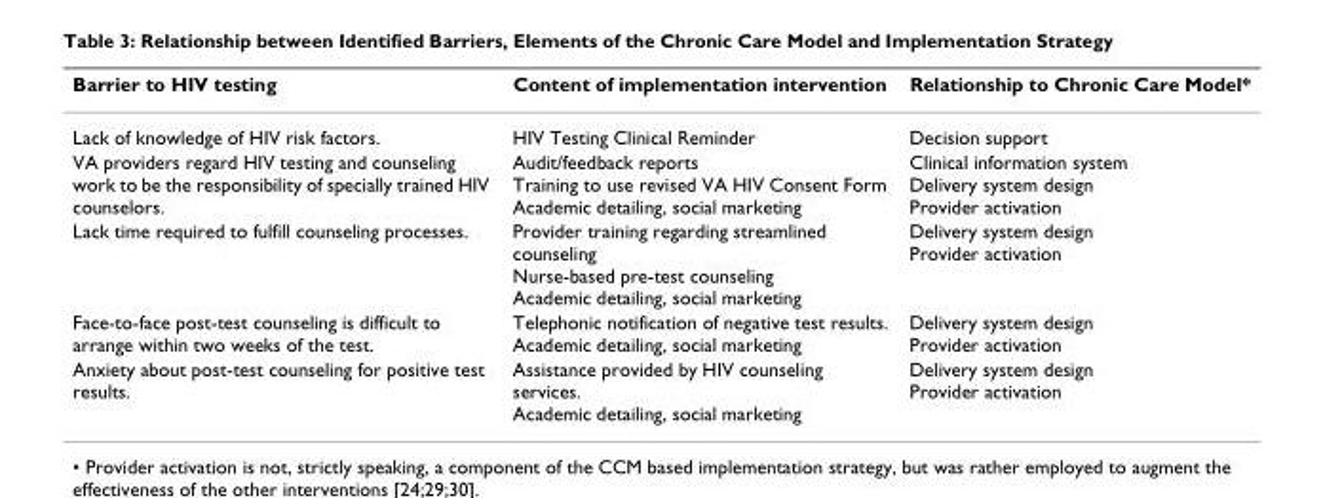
<table><thead><tr><td>Barrier to HIV testing</td><td>Content of implementation intervention</td><td>Relationship to Chronic Care Model*</td></tr></thead><tbody><tr><td>Lack of knowledge of HIV risk factors.</td><td>HIV Testing Clinical Reminder</td><td>Decision support</td></tr><tr><td>VA providers regard HIV testing and counseling work to be the responsibility of specially trained HIV counselors.</td><td>Audit/feedback reports Training to use revised VA HIV Consent Form Academic detailing, social marketing</td><td>Clinical information system Delivery system design Provider activation</td></tr><tr><td>Lack time required to fulfill counseling processes.</td><td>Provider training regarding streamlined counseling Nurse-based pre-test counseling Academic detailing, social marketing</td><td>Delivery system design Provider activation</td></tr><tr><td>Face-to-face post-test counseling is difficult to arrange within two weeks of the test.</td><td>Telephonic notification of negative test results. Academic detailing, social marketing</td><td>Delivery system design Provider activation</td></tr><tr><td>Anxiety about post-test counseling for positive test results.</td><td>Assistance provided by HIV counseling services. Academic detailing, social marketing</td><td>Delivery system design Provider activation</td></tr></tbody></table>